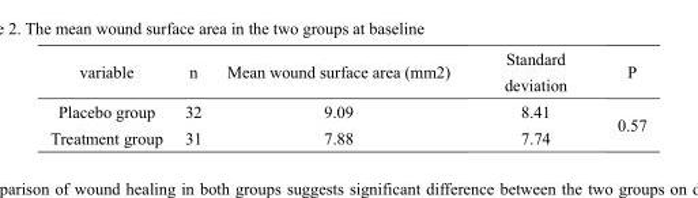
<table><thead><tr><td>variable</td><td>n</td><td>Mean wound surface area (mm2)</td><td>Standard deviation</td><td>P</td></tr></thead><tbody><tr><td>Placebo group</td><td>32</td><td>9.09</td><td>8.41</td><td rowspan="2">0.57</td></tr><tr><td>Treatment group</td><td>31</td><td>7.88</td><td>7.74</td></tr></tbody></table>